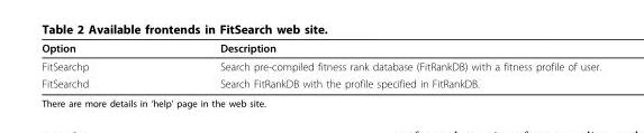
<table><thead><tr><td>Option</td><td>Description</td></tr></thead><tbody><tr><td>FitSearchp</td><td>Search pre-compiled fitness rank database (FitRankDB) with a fitness profile of user.</td></tr><tr><td>FitSearchd</td><td>Search FitRankDB with the profile specified in FitRankDB.</td></tr></tbody></table>